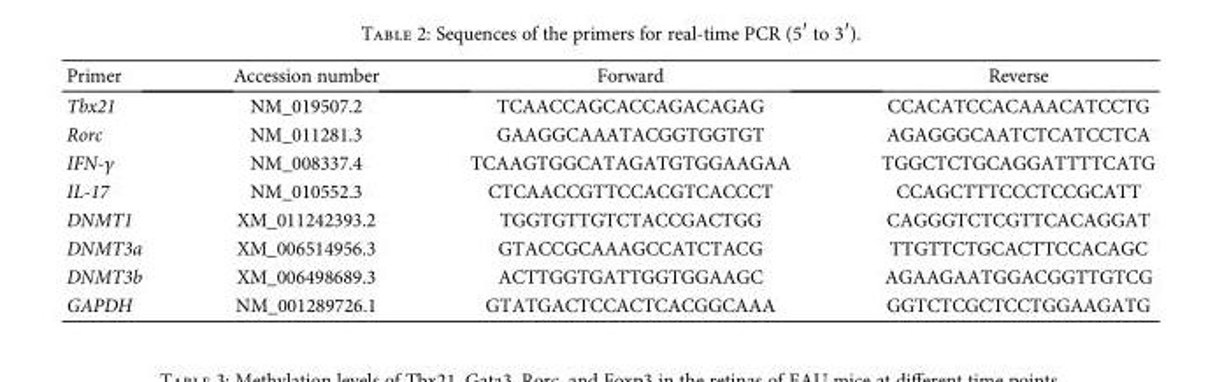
<table><thead><tr><td>Primer</td><td>Accession number</td><td>Forward</td><td>Reverse</td></tr></thead><tbody><tr><td>Tbx21</td><td>NM_019507.2</td><td>TCAACCAGCACCAGACAGAG</td><td>CCACATCCACAAACATCCTG</td></tr><tr><td>Rorc</td><td>NM_011281.3</td><td>GAAGGCAAATACGGTGGTGT</td><td>AGAGGGCAATCTCATCCTCA</td></tr><tr><td>IFN-γ</td><td>NM_008337.4</td><td>TCAAGTGGCATAGATGTGGAAGAA</td><td>TGGCTCTGCAGGATTTTCATG</td></tr><tr><td>IL-17</td><td>NM_010552.3</td><td>CTCAACCGTTCCACGTCACCCT</td><td>CCAGCTTTCCCTCCGCATT</td></tr><tr><td>DNMT1</td><td>XM_011242393.2</td><td>TGGTGTTGTCTACCGACTGG</td><td>CAGGGTCTCGTTCACAGGAT</td></tr><tr><td>DNMT3a</td><td>XM_006514956.3</td><td>GTACCGCAAAGCCATCTACG</td><td>TTGTTCTGCACTTCCACAGC</td></tr><tr><td>DNMT3b</td><td>XM_006498689.3</td><td>ACTTGGTGATTGGTGGAAGC</td><td>AGAAGAATGGACGGTTGTCG</td></tr><tr><td>GAPDH</td><td>NM_001289726.1</td><td>GTATGACTCCACTCACGGCAAA</td><td>GGTCTCGCTCCTGGAAGATG</td></tr></tbody></table>